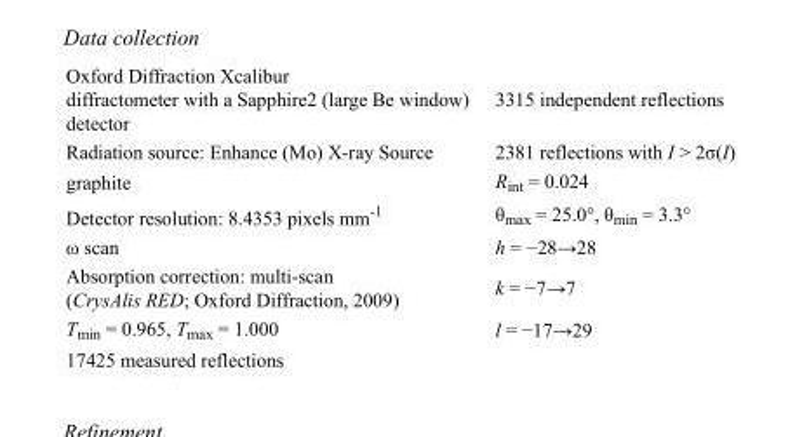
<table><tbody><tr><td>Oxford Diffraction Xcalibur diffractometer with a Sapphire2 (large Be window) detector</td><td>3315 independent reflections</td></tr><tr><td>Radiation source: Enhance (Mo) X-ray Source</td><td>2381 reflections with I &gt; 2σ(I)</td></tr><tr><td>graphite</td><td>R<sub>int</sub> = 0.024</td></tr><tr><td>Detector resolution: 8.4353 pixels mm<sup>-1</sup></td><td>θ<sub>max</sub> = 25.0°, θ<sub>min</sub> = 3.3°</td></tr><tr><td>ω scan</td><td>h = −28→28</td></tr><tr><td>Absorption correction: multi-scan (CrysAlis RED; Oxford Diffraction, 2009)</td><td>k = −7→7</td></tr><tr><td>T<sub>min</sub> = 0.965, T<sub>max</sub> = 1.000</td><td>l = −17→29</td></tr><tr><td>17425 measured reflections</td><td></td></tr></tbody></table>